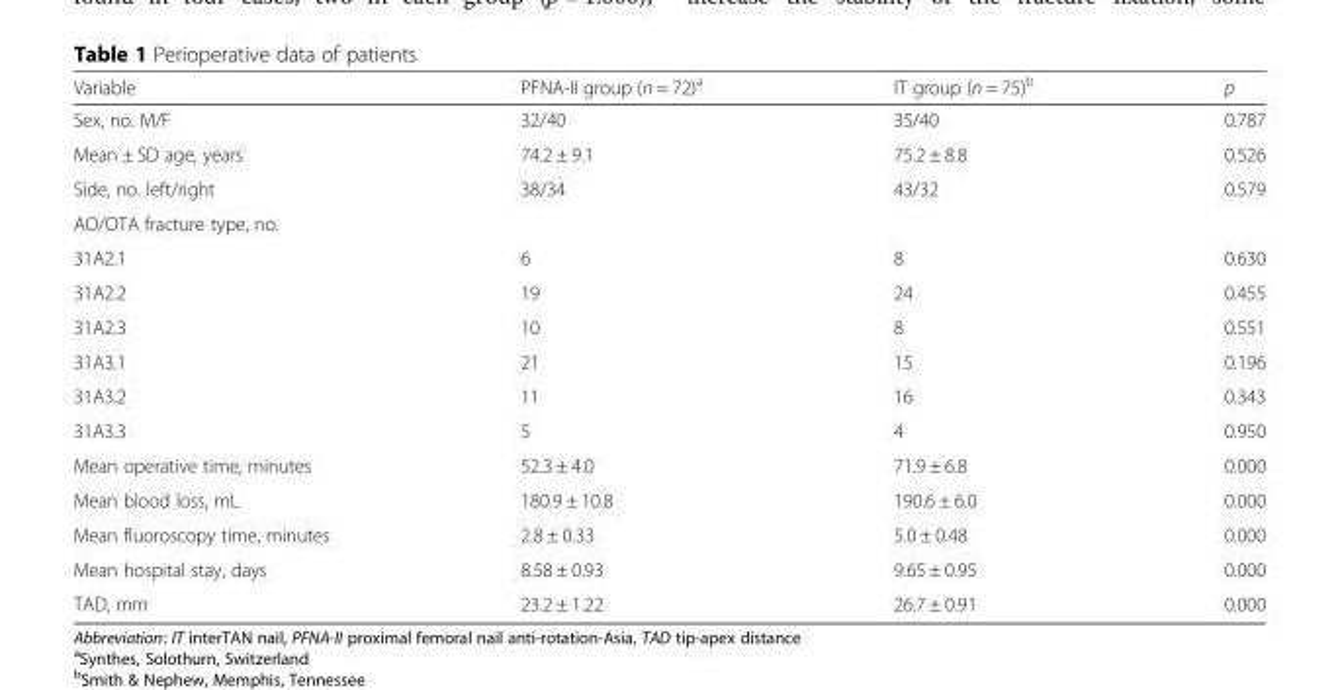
<table><thead><tr><td>Variable</td><td>PFNA-II group (n = 72)<sup>a</sup></td><td>IT group (n = 75)<sup>b</sup></td><td>p</td></tr></thead><tbody><tr><td>Sex, no. M/F</td><td>32/40</td><td>35/40</td><td>0.787</td></tr><tr><td>Mean ± SD age, years</td><td>74.2 ± 9.1</td><td>75.2 ± 8.8</td><td>0.526</td></tr><tr><td>Side, no. left/right</td><td>38/34</td><td>43/32</td><td>0.579</td></tr><tr><td colspan="4">AO/OTA fracture type, no.</td></tr><tr><td>31A2.1</td><td>6</td><td>8</td><td>0.630</td></tr><tr><td>31A2.2</td><td>19</td><td>24</td><td>0.455</td></tr><tr><td>31A2.3</td><td>10</td><td>8</td><td>0.551</td></tr><tr><td>31A3.1</td><td>21</td><td>15</td><td>0.196</td></tr><tr><td>31A3.2</td><td>11</td><td>16</td><td>0.343</td></tr><tr><td>31A3.3</td><td>5</td><td>4</td><td>0.950</td></tr><tr><td>Mean operative time, minutes</td><td>52.3 ± 4.0</td><td>71.9 ± 6.8</td><td>0.000</td></tr><tr><td>Mean blood loss, mL</td><td>180.9 ± 10.8</td><td>190.6 ± 6.0</td><td>0.000</td></tr><tr><td>Mean fluoroscopy time, minutes</td><td>2.8 ± 0.33</td><td>5.0 ± 0.48</td><td>0.000</td></tr><tr><td>Mean hospital stay, days</td><td>8.58 ± 0.93</td><td>9.65 ± 0.95</td><td>0.000</td></tr><tr><td>TAD, mm</td><td>23.2 ± 1.22</td><td>26.7 ± 0.91</td><td>0.000</td></tr></tbody></table>